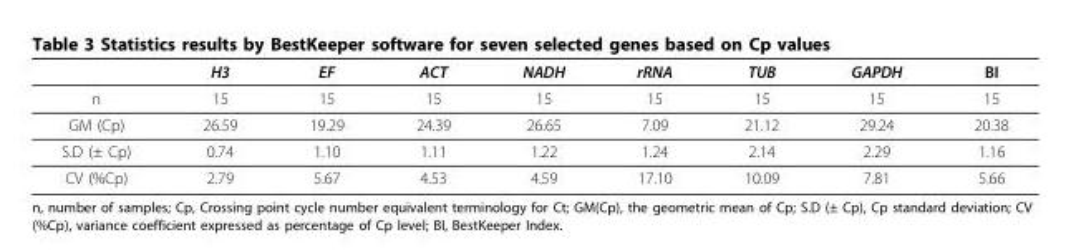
<table><thead><tr><td></td><td>H3</td><td>EF</td><td>ACT</td><td>NADH</td><td>rRNA</td><td>TUB</td><td>GAPDH</td><td>BI</td></tr></thead><tbody><tr><td>n</td><td>15</td><td>15</td><td>15</td><td>15</td><td>15</td><td>15</td><td>15</td><td>15</td></tr><tr><td>GM (Cp)</td><td>26.59</td><td>19.29</td><td>24.39</td><td>26.65</td><td>7.09</td><td>21.12</td><td>29.24</td><td>20.38</td></tr><tr><td>S.D (± Cp)</td><td>0.74</td><td>1.10</td><td>1.11</td><td>1.22</td><td>1.24</td><td>2.14</td><td>2.29</td><td>1.16</td></tr><tr><td>CV (%Cp)</td><td>2.79</td><td>5.67</td><td>4.53</td><td>4.59</td><td>17.10</td><td>10.09</td><td>7.81</td><td>5.66</td></tr></tbody></table>